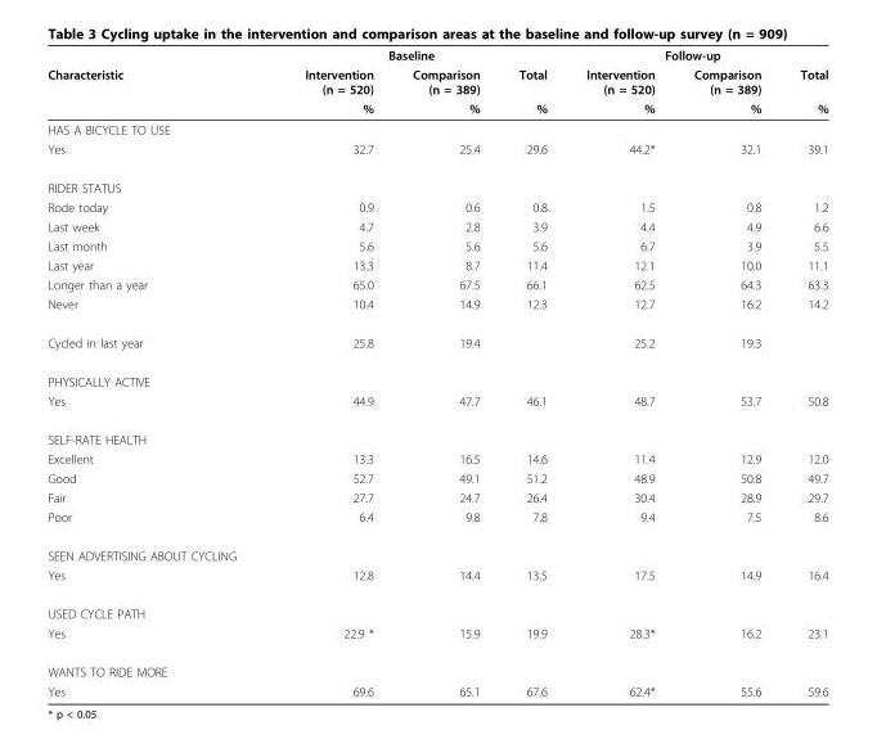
<table><thead><tr><td rowspan="3">Characteristic</td><td colspan="3">Baseline</td><td colspan="3">Follow-up</td></tr><tr><td rowspan="2">Intervention (n = 520) %</td><td rowspan="2">Comparison (n = 389) %</td><td rowspan="2">Total %</td><td rowspan="2">Intervention (n = 520) %</td><td rowspan="2">Comparison (n = 389) %</td><td rowspan="2">Total %</td></tr><tr></tr></thead><tbody><tr><td colspan="7">HAS A BICYCLE TO USE</td></tr><tr><td>Yes</td><td>32.7</td><td>25.4</td><td>29.6</td><td>44.2*</td><td>32.1</td><td>39.1</td></tr><tr><td colspan="7">RIDER STATUS</td></tr><tr><td>Rode today</td><td>0.9</td><td>0.6</td><td>0.8</td><td>1.5</td><td>0.8</td><td>1.2</td></tr><tr><td>Last week</td><td>4.7</td><td>2.8</td><td>3.9</td><td>4.4</td><td>4.9</td><td>6.6</td></tr><tr><td>Last month</td><td>5.6</td><td>5.6</td><td>5.6</td><td>6.7</td><td>3.9</td><td>5.5</td></tr><tr><td>Last year</td><td>13.3</td><td>8.7</td><td>11.4</td><td>12.1</td><td>10.0</td><td>11.1</td></tr><tr><td>Longer than a year</td><td>65.0</td><td>67.5</td><td>66.1</td><td>62.5</td><td>64.3</td><td>63.3</td></tr><tr><td>Never</td><td>10.4</td><td>14.9</td><td>12.3</td><td>12.7</td><td>16.2</td><td>14.2</td></tr><tr><td>Cycled in last year</td><td>25.8</td><td>19.4</td><td></td><td>25.2</td><td>19.3</td><td></td></tr><tr><td colspan="7">PHYSICALLY ACTIVE</td></tr><tr><td>Yes</td><td>44.9</td><td>47.7</td><td>46.1</td><td>48.7</td><td>53.7</td><td>50.8</td></tr><tr><td colspan="7">SELF-RATE HEALTH</td></tr><tr><td>Excellent</td><td>13.3</td><td>16.5</td><td>14.6</td><td>11.4</td><td>12.9</td><td>12.0</td></tr><tr><td>Good</td><td>52.7</td><td>49.1</td><td>51.2</td><td>48.9</td><td>50.8</td><td>49.7</td></tr><tr><td>Fair</td><td>27.7</td><td>24.7</td><td>26.4</td><td>30.4</td><td>28.9</td><td>29.7</td></tr><tr><td>Poor</td><td>6.4</td><td>9.8</td><td>7.8</td><td>9.4</td><td>7.5</td><td>8.6</td></tr><tr><td colspan="7">SEEN ADVERTISING ABOUT CYCLING</td></tr><tr><td>Yes</td><td>12.8</td><td>14.4</td><td>13.5</td><td>17.5</td><td>14.9</td><td>16.4</td></tr><tr><td colspan="7">USED CYCLE PATH</td></tr><tr><td>Yes</td><td>22.9 *</td><td>15.9</td><td>19.9</td><td>28.3*</td><td>16.2</td><td>23.1</td></tr><tr><td colspan="7">WANTS TO RIDE MORE</td></tr><tr><td>Yes</td><td>69.6</td><td>65.1</td><td>67.6</td><td>62.4*</td><td>55.6</td><td>59.6</td></tr></tbody></table>